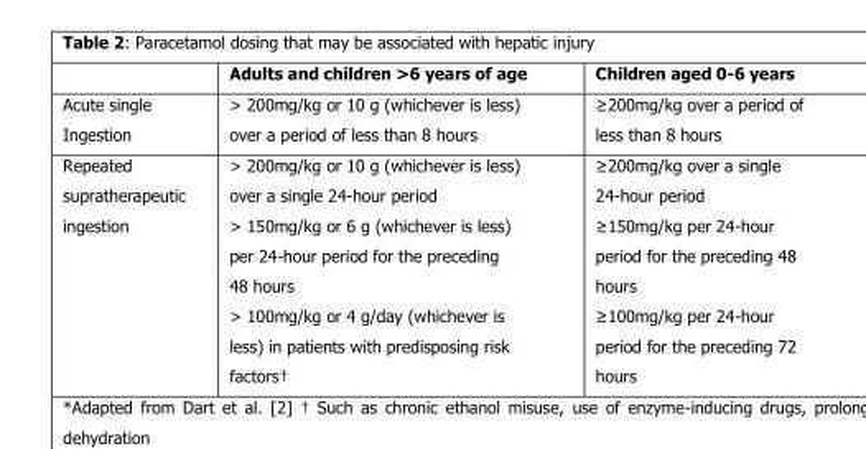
<table><thead><tr><td></td><td>Adults and children &gt;6 years of age</td><td>Children aged 0-6 years</td></tr></thead><tbody><tr><td>Acute single Ingestion</td><td>&gt; 200mg/kg or 10 g (whichever is less) over a period of less than 8 hours</td><td>≥200mg/kg over a period of less than 8 hours</td></tr><tr><td>Repeated supratherapeutic ingestion</td><td>&gt; 200mg/kg or 10 g (whichever is less) over a single 24-hour period &gt; 150mg/kg or 6 g (whichever is less) per 24-hour period for the preceding 48 hours &gt; 100mg/kg or 4 g/day (whichever is less) in patients with predisposing risk factors<sup>†</sup></td><td>≥200mg/kg over a single 24-hour period ≥150mg/kg per 24-hour period for the preceding 48 hours ≥100mg/kg per 24-hour period for the preceding 72 hours</td></tr></tbody></table>